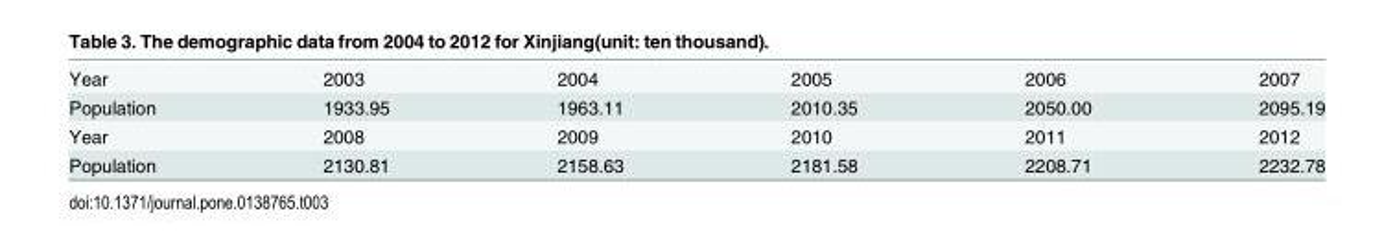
<table><tbody><tr><td>Year</td><td>2003</td><td>2004</td><td>2005</td><td>2006</td><td>2007</td></tr><tr><td>Population</td><td>1933.95</td><td>1963.11</td><td>2010.35</td><td>2050.00</td><td>2095.19</td></tr><tr><td>Year</td><td>2008</td><td>2009</td><td>2010</td><td>2011</td><td>2012</td></tr><tr><td>Population</td><td>2130.81</td><td>2158.63</td><td>2181.58</td><td>2208.71</td><td>2232.78</td></tr></tbody></table>